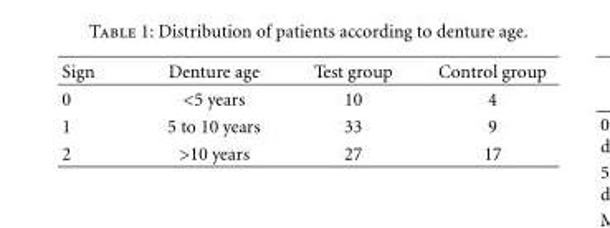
<table><thead><tr><td>Sign</td><td>Denture age</td><td>Test group</td><td>Control group</td></tr></thead><tbody><tr><td>0</td><td>&lt;5 years</td><td>10</td><td>4</td></tr><tr><td>1</td><td>5 to 10 years</td><td>33</td><td>9</td></tr><tr><td>2</td><td>&gt;10 years</td><td>27</td><td>17</td></tr></tbody></table>